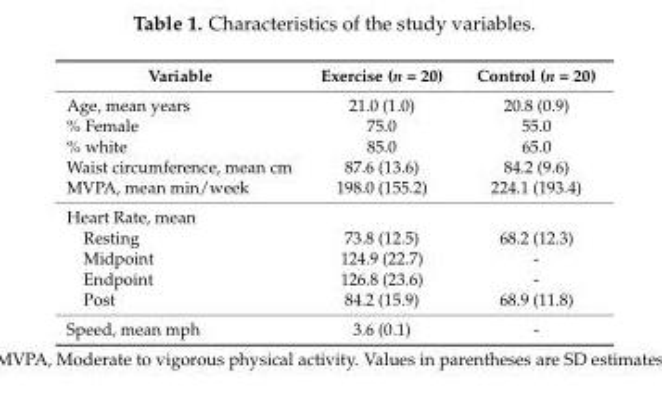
<table><thead><tr><td>Variable</td><td>Exercise (n = 20)</td><td>Control (n = 20)</td></tr></thead><tbody><tr><td>Age, mean years</td><td>21.0 (1.0)</td><td>20.8 (0.9)</td></tr><tr><td>% Female</td><td>75.0</td><td>55.0</td></tr><tr><td>% white</td><td>85.0</td><td>65.0</td></tr><tr><td>Waist circumference, mean cm</td><td>87.6 (13.6)</td><td>84.2 (9.6)</td></tr><tr><td>MVPA, mean min/week</td><td>198.0 (155.2)</td><td>224.1 (193.4)</td></tr><tr><td colspan="3">Heart Rate, mean</td></tr><tr><td>Resting</td><td>73.8 (12.5)</td><td>68.2 (12.3)</td></tr><tr><td>Midpoint</td><td>124.9 (22.7)</td><td>-</td></tr><tr><td>Endpoint</td><td>126.8 (23.6)</td><td>-</td></tr><tr><td>Post</td><td>84.2 (15.9)</td><td>68.9 (11.8)</td></tr><tr><td>Speed, mean mph</td><td>3.6 (0.1)</td><td>-</td></tr></tbody></table>